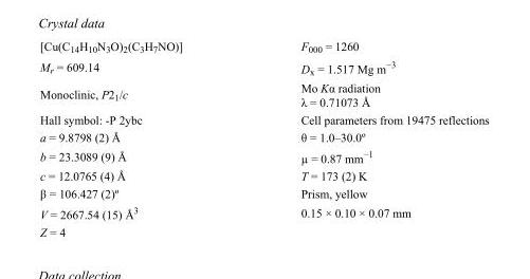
<table><tbody><tr><td>[Cu(C<sub>14</sub>H<sub>10</sub>N<sub>3</sub>O)<sub>2</sub>(C<sub>3</sub>H<sub>7</sub>NO)]</td><td>F<sub>000</sub> = 1260</td></tr><tr><td>M<sub>r</sub> = 609.14</td><td>D<sub>x</sub> = 1.517 Mg m<sup>−3</sup></td></tr><tr><td>Monoclinic, P2<sub>1</sub>/c</td><td>Mo Kα radiation λ = 0.71073 Å</td></tr><tr><td>Hall symbol: -P 2ybc</td><td>Cell parameters from 19475 reflections</td></tr><tr><td>a = 9.8798 (2) Å</td><td>θ = 1.0–30.0º</td></tr><tr><td>b = 23.3089 (9) Å</td><td>µ = 0.87 mm<sup>−1</sup></td></tr><tr><td>c = 12.0765 (4) Å</td><td>T = 173 (2) K</td></tr><tr><td>β = 106.427 (2)º</td><td>Prism, yellow</td></tr><tr><td>V = 2667.54 (15) Å<sup>3</sup></td><td>0.15 × 0.10 × 0.07 mm</td></tr><tr><td>Z = 4</td><td></td></tr></tbody></table>